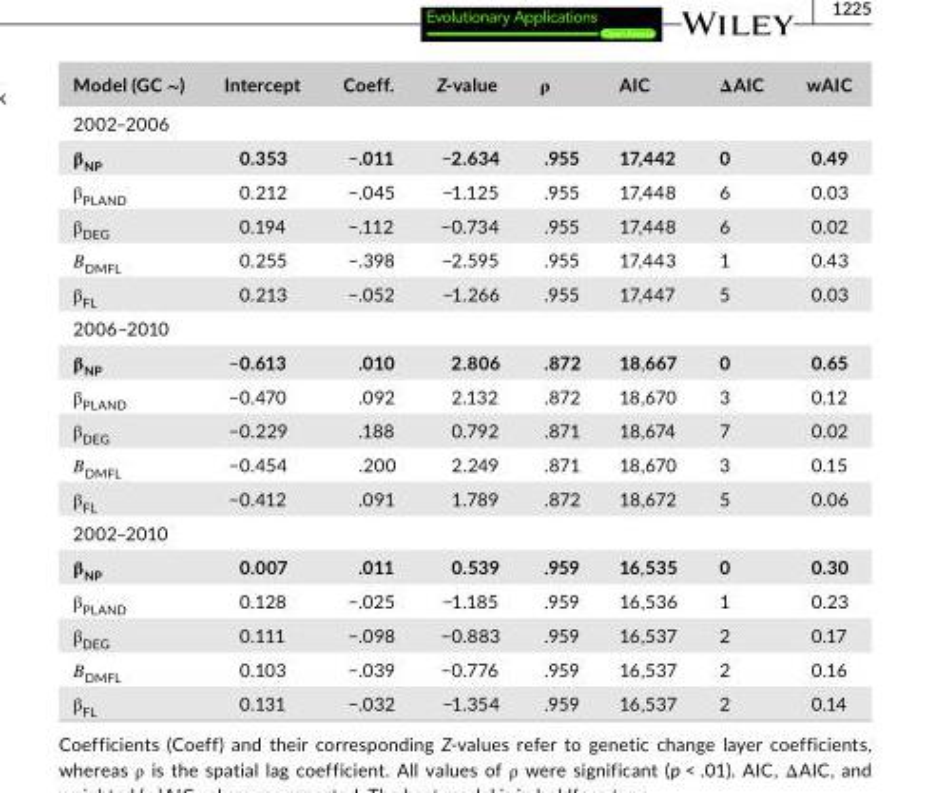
<table><thead><tr><td>Model (GC ∼)</td><td>Intercept</td><td>Coeff.</td><td>Z- value</td><td>ρ</td><td>AIC</td><td>ΔAIC</td><td>wAIC</td></tr></thead><tbody><tr><td colspan="8">2002–2006</td></tr><tr><td>β<sub>NP</sub></td><td>0.353</td><td>−.011</td><td>−2.634</td><td>.955</td><td>17,442</td><td>0</td><td>0.49</td></tr><tr><td>β<sub>PLAND</sub></td><td>0.212</td><td>−.045</td><td>−1.125</td><td>.955</td><td>17,448</td><td>6</td><td>0.03</td></tr><tr><td>β<sub>DEG</sub></td><td>0.194</td><td>−.112</td><td>−0.734</td><td>.955</td><td>17,448</td><td>6</td><td>0.02</td></tr><tr><td>Β<sub>DMFL</sub></td><td>0.255</td><td>−.398</td><td>−2.595</td><td>.955</td><td>17,443</td><td>1</td><td>0.43</td></tr><tr><td>β<sub>FL</sub></td><td>0.213</td><td>−.052</td><td>−1.266</td><td>.955</td><td>17,447</td><td>5</td><td>0.03</td></tr><tr><td colspan="8">2006–2010</td></tr><tr><td>β<sub>NP</sub></td><td>−0.613</td><td>.010</td><td>2.806</td><td>.872</td><td>18,667</td><td>0</td><td>0.65</td></tr><tr><td>β<sub>PLAND</sub></td><td>−0.470</td><td>.092</td><td>2.132</td><td>.872</td><td>18,670</td><td>3</td><td>0.12</td></tr><tr><td>β<sub>DEG</sub></td><td>−0.229</td><td>.188</td><td>0.792</td><td>.871</td><td>18,674</td><td>7</td><td>0.02</td></tr><tr><td>Β<sub>DMFL</sub></td><td>−0.454</td><td>.200</td><td>2.249</td><td>.871</td><td>18,670</td><td>3</td><td>0.15</td></tr><tr><td>β<sub>FL</sub></td><td>−0.412</td><td>.091</td><td>1.789</td><td>.872</td><td>18,672</td><td>5</td><td>0.06</td></tr><tr><td colspan="8">2002–2010</td></tr><tr><td>β<sub>NP</sub></td><td>0.007</td><td>.011</td><td>0.539</td><td>.959</td><td>16,535</td><td>0</td><td>0.30</td></tr><tr><td>β<sub>PLAND</sub></td><td>0.128</td><td>−.025</td><td>−1.185</td><td>.959</td><td>16,536</td><td>1</td><td>0.23</td></tr><tr><td>β<sub>DEG</sub></td><td>0.111</td><td>−.098</td><td>−0.883</td><td>.959</td><td>16,537</td><td>2</td><td>0.17</td></tr><tr><td>Β<sub>DMFL</sub></td><td>0.103</td><td>−.039</td><td>−0.776</td><td>.959</td><td>16,537</td><td>2</td><td>0.16</td></tr><tr><td>β<sub>FL</sub></td><td>0.131</td><td>−.032</td><td>−1.354</td><td>.959</td><td>16,537</td><td>2</td><td>0.14</td></tr></tbody></table>